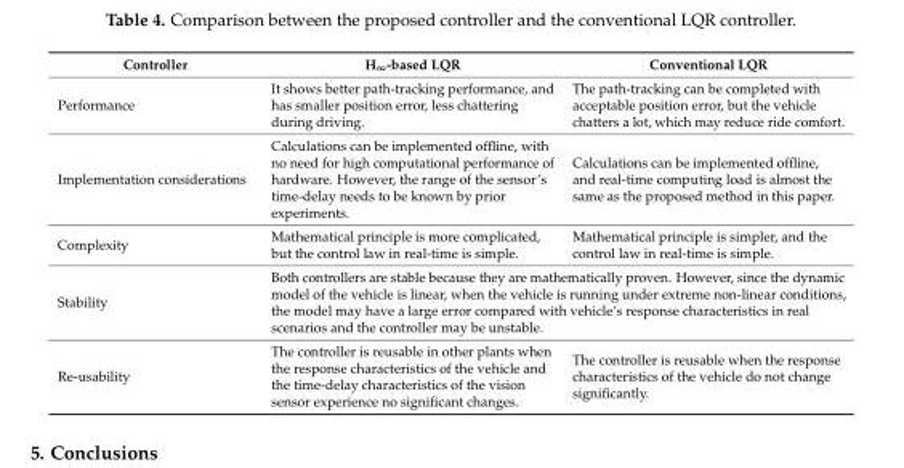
<table><thead><tr><td>Controller</td><td>H<sub>∞</sub>-based LQR</td><td>Conventional LQR</td></tr></thead><tbody><tr><td>Performance</td><td>It shows better path-tracking performance, and has smaller position error, less chattering during driving.</td><td>The path-tracking can be completed with acceptable position error, but the vehicle chatters a lot, which may reduce ride comfort.</td></tr><tr><td>Implementation considerations</td><td>Calculations can be implemented offline, with no need for high computational performance of hardware. However, the range of the sensor’s time-delay needs to be known by prior experiments.</td><td>Calculations can be implemented offline, and real-time computing load is almost the same as the proposed method in this paper.</td></tr><tr><td>Complexity</td><td>Mathematical principle is more complicated, but the control law in real-time is simple.</td><td>Mathematical principle is simpler, and the control law in real-time is simple.</td></tr><tr><td>Stability</td><td colspan="2">Both controllers are stable because they are mathematically proven. However, since the dynamic model of the vehicle is linear, when the vehicle is running under extreme non-linear conditions, the model may have a large error compared with vehicle’s response characteristics in real scenarios and the controller may be unstable.</td></tr><tr><td>Re-usability</td><td>The controller is reusable in other plants when the response characteristics of the vehicle and the time-delay characteristics of the vision sensor experience no significant changes.</td><td>The controller is reusable when the response characteristics of the vehicle do not change significantly.</td></tr></tbody></table>